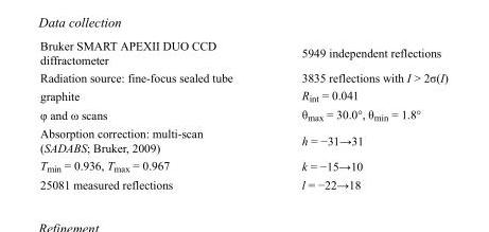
<table><tbody><tr><td>Bruker SMART APEXII DUO CCD diffractometer</td><td>5949 independent reflections</td></tr><tr><td>Radiation source: fine-focus sealed tube</td><td>3835 reflections with I &gt; 2σ(I)</td></tr><tr><td>graphite</td><td>R<sub>int</sub> = 0.041</td></tr><tr><td>φ and ω scans</td><td>θ<sub>max</sub> = 30.0°, θ<sub>min</sub> = 1.8°</td></tr><tr><td>Absorption correction: multi-scan (SADABS; Bruker, 2009)</td><td>h = −31→31</td></tr><tr><td>T<sub>min</sub> = 0.936, T<sub>max</sub> = 0.967</td><td>k = −15→10</td></tr><tr><td>25081 measured reflections</td><td>l = −22→18</td></tr></tbody></table>